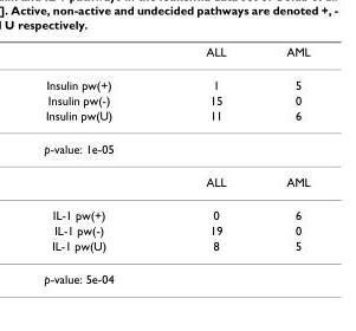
<table><thead><tr><td></td><td>ALL</td><td>AML</td></tr></thead><tbody><tr><td>Insulin pw(+)</td><td>1</td><td>5</td></tr><tr><td>Insulin pw(-)</td><td>15</td><td>0</td></tr><tr><td>Insulin pw(U)</td><td>11</td><td>6</td></tr><tr><td colspan="3">p-value: 1e-05</td></tr><tr><td></td><td>ALL</td><td>AML</td></tr><tr><td>IL-1 pw(+)</td><td>0</td><td>6</td></tr><tr><td>IL-1 pw(-)</td><td>19</td><td>0</td></tr><tr><td>IL-1 pw(U)</td><td>8</td><td>5</td></tr><tr><td>p-value: 5e-04</td><td></td><td></td></tr></tbody></table>